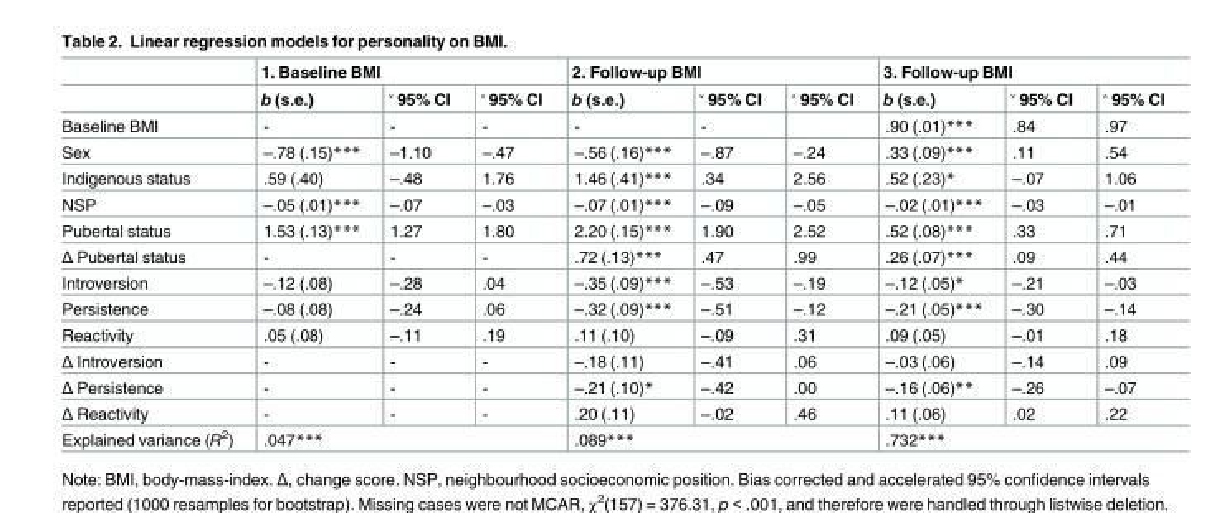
<table><thead><tr><td rowspan="2"></td><td colspan="3">1. Baseline BMI</td><td colspan="3">2. Follow-up BMI</td><td colspan="3">3. Follow-up BMI</td></tr><tr><td>b (s.e.)</td><td>˅ 95% CI</td><td>˄ 95% CI</td><td>b (s.e.)</td><td>˅ 95% CI</td><td>˄ 95% CI</td><td>b (s.e.)</td><td>˅ 95% CI</td><td>˄ 95% CI</td></tr></thead><tbody><tr><td>Baseline BMI</td><td>-</td><td>-</td><td>-</td><td>-</td><td>-</td><td></td><td>.90 (.01)***</td><td>.84</td><td>.97</td></tr><tr><td>Sex</td><td>–.78 (.15)***</td><td>–1.10</td><td>–.47</td><td>–.56 (.16)***</td><td>–.87</td><td>–.24</td><td>.33 (.09)***</td><td>.11</td><td>.54</td></tr><tr><td>Indigenous status</td><td>.59 (.40)</td><td>–.48</td><td>1.76</td><td>1.46 (.41)***</td><td>.34</td><td>2.56</td><td>.52 (.23)*</td><td>–.07</td><td>1.06</td></tr><tr><td>NSP</td><td>–.05 (.01)***</td><td>–.07</td><td>–.03</td><td>–.07 (.01)***</td><td>–.09</td><td>–.05</td><td>–.02 (.01)***</td><td>–.03</td><td>–.01</td></tr><tr><td>Pubertal status</td><td>1.53 (.13)***</td><td>1.27</td><td>1.80</td><td>2.20 (.15)***</td><td>1.90</td><td>2.52</td><td>.52 (.08)***</td><td>.33</td><td>.71</td></tr><tr><td>Δ Pubertal status</td><td>-</td><td>-</td><td>-</td><td>.72 (.13)***</td><td>.47</td><td>.99</td><td>.26 (.07)***</td><td>.09</td><td>.44</td></tr><tr><td>Introversion</td><td>–.12 (.08)</td><td>–.28</td><td>.04</td><td>–.35 (.09)***</td><td>–.53</td><td>–.19</td><td>–.12 (.05)*</td><td>–.21</td><td>–.03</td></tr><tr><td>Persistence</td><td>–.08 (.08)</td><td>–.24</td><td>.06</td><td>–.32 (.09)***</td><td>–.51</td><td>–.12</td><td>–.21 (.05)***</td><td>–.30</td><td>–.14</td></tr><tr><td>Reactivity</td><td>.05 (.08)</td><td>–.11</td><td>.19</td><td>.11 (.10)</td><td>–.09</td><td>.31</td><td>.09 (.05)</td><td>–.01</td><td>.18</td></tr><tr><td>Δ Introversion</td><td>-</td><td>-</td><td>-</td><td>–.18 (.11)</td><td>–.41</td><td>.06</td><td>–.03 (.06)</td><td>–.14</td><td>.09</td></tr><tr><td>Δ Persistence</td><td>-</td><td>-</td><td>-</td><td>–.21 (.10)*</td><td>–.42</td><td>.00</td><td>–.16 (.06)**</td><td>–.26</td><td>–.07</td></tr><tr><td>Δ Reactivity</td><td>-</td><td>-</td><td>-</td><td>.20 (.11)</td><td>–.02</td><td>.46</td><td>.11 (.06)</td><td>.02</td><td>.22</td></tr><tr><td>Explained variance (R<sup>2</sup>)</td><td colspan="3">.047***</td><td colspan="3">.089***</td><td colspan="3">.732***</td></tr></tbody></table>